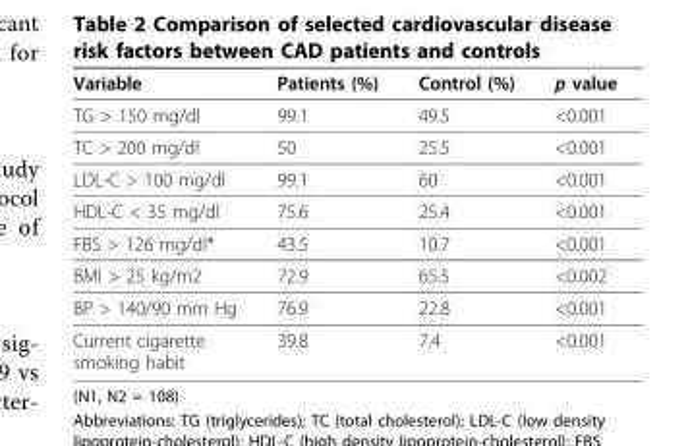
<table><thead><tr><td>Variable</td><td>Patients (%)</td><td>Control (%)</td><td>p value</td></tr></thead><tbody><tr><td>TG &gt; 150 mg/dl</td><td>99.1</td><td>49.5</td><td>&lt;0.001</td></tr><tr><td>TC &gt; 200 mg/dl</td><td>50</td><td>25.5</td><td>&lt;0.001</td></tr><tr><td>LDL-C &gt; 100 mg/dl</td><td>99.1</td><td>60</td><td>&lt;0.001</td></tr><tr><td>HDL-C &lt; 35 mg/dl</td><td>75.6</td><td>25.4</td><td>&lt;0.001</td></tr><tr><td>FBS &gt; 126 mg/dl*</td><td>43.5</td><td>10.7</td><td>&lt;0.001</td></tr><tr><td>BMI &gt; 25 kg/m2</td><td>72.9</td><td>65.5</td><td>&lt;0.002</td></tr><tr><td>BP &gt; 140/90 mm Hg</td><td>76.9</td><td>22.8</td><td>&lt;0.001</td></tr><tr><td>Current cigarette smoking habit</td><td>39.8</td><td>7.4</td><td>&lt;0.001</td></tr></tbody></table>